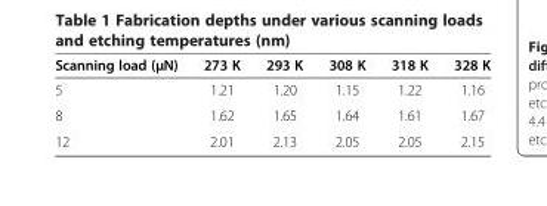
<table><thead><tr><td>Scanning load (μN)</td><td>273 K</td><td>293 K</td><td>308 K</td><td>318 K</td><td>328 K</td></tr></thead><tbody><tr><td>5</td><td>1.21</td><td>1.20</td><td>1.15</td><td>1.22</td><td>1.16</td></tr><tr><td>8</td><td>1.62</td><td>1.65</td><td>1.64</td><td>1.61</td><td>1.67</td></tr><tr><td>12</td><td>2.01</td><td>2.13</td><td>2.05</td><td>2.05</td><td>2.15</td></tr></tbody></table>